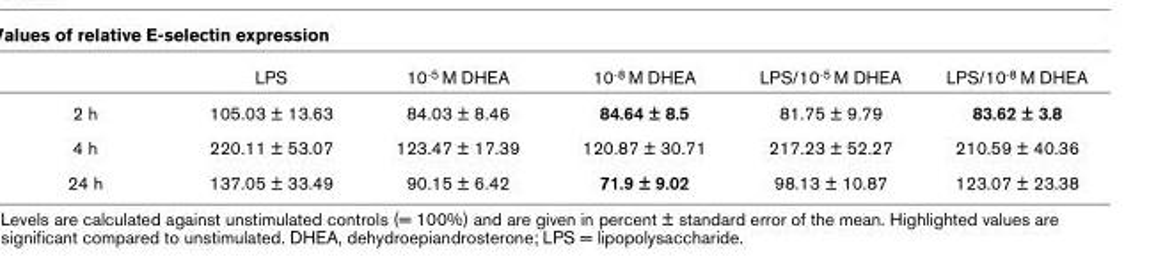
<table><thead><tr><td></td><td>LPS</td><td>10-5 M DHEA</td><td>10-8 M DHEA</td><td>LPS/10-5 M DHEA</td><td>LPS/10-8 M DHEA</td></tr></thead><tbody><tr><td>2 h</td><td>105.03 ± 13.63</td><td>84.03 ± 8.46</td><td>84.64 ± 8.5</td><td>81.75 ± 9.79</td><td>83.62 ± 3.8</td></tr><tr><td>4 h</td><td>220.11 ± 53.07</td><td>123.47 ± 17.39</td><td>120.87 ± 30.71</td><td>217.23 ± 52.27</td><td>210.59 ± 40.36</td></tr><tr><td>24 h</td><td>137.05 ± 33.49</td><td>90.15 ± 6.42</td><td>71.9 ± 9.02</td><td>98.13 ± 10.87</td><td>123.07 ± 23.38</td></tr></tbody></table>